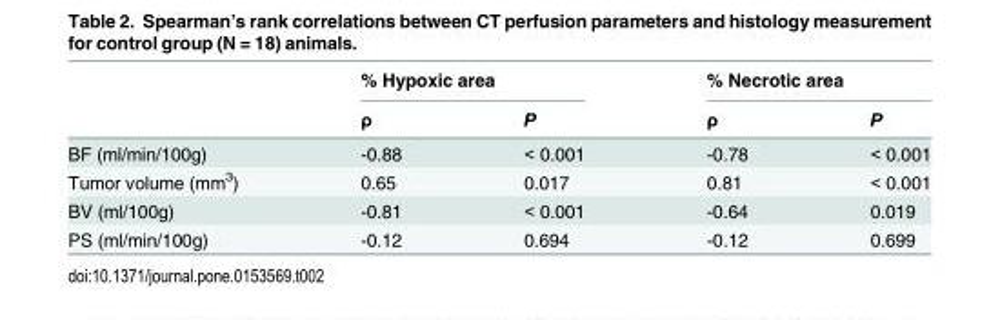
<table><thead><tr><td rowspan="2"></td><td colspan="2">% Hypoxic area</td><td colspan="2">% Necrotic area</td></tr><tr><td>ρ</td><td>P</td><td>ρ</td><td>P</td></tr></thead><tbody><tr><td>BF (ml/min/100g)</td><td>-0.88</td><td>&lt; 0.001</td><td>-0.78</td><td>&lt; 0.001</td></tr><tr><td>Tumor volume (mm<sup>3</sup>)</td><td>0.65</td><td>0.017</td><td>0.81</td><td>&lt; 0.001</td></tr><tr><td>BV (ml/100g)</td><td>-0.81</td><td>&lt; 0.001</td><td>-0.64</td><td>0.019</td></tr><tr><td>PS (ml/min/100g)</td><td>-0.12</td><td>0.694</td><td>-0.12</td><td>0.699</td></tr></tbody></table>